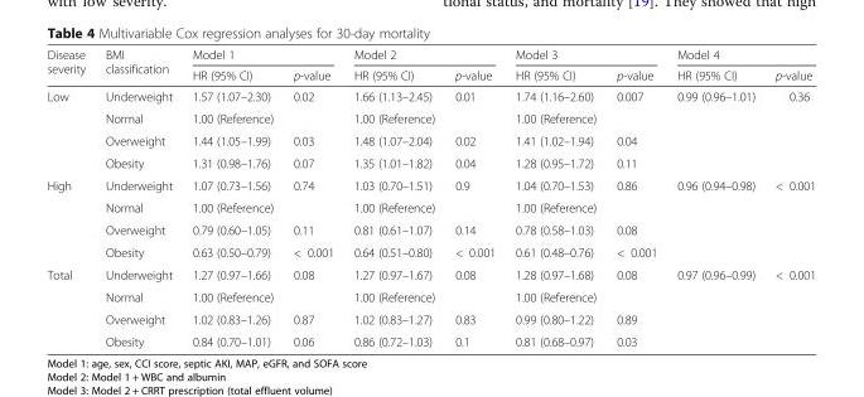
<table><thead><tr><td rowspan="2">Disease severity</td><td rowspan="2">BMI classification</td><td colspan="2">Model 1</td><td colspan="2">Model 2</td><td colspan="2">Model 3</td><td colspan="2">Model 4</td></tr><tr><td>HR (95% CI)</td><td>p-value</td><td>HR (95% CI)</td><td>p-value</td><td>HR (95% CI)</td><td>p-value</td><td>HR (95% CI)</td><td>p-value</td></tr></thead><tbody><tr><td rowspan="4">Low</td><td>Underweight</td><td>1.57 (1.07–2.30)</td><td>0.02</td><td>1.66 (1.13–2.45)</td><td>0.01</td><td>1.74 (1.16–2.60)</td><td>0.007</td><td rowspan="4">0.99 (0.96–1.01)</td><td rowspan="4">0.36</td></tr><tr><td>Normal</td><td>1.00 (Reference)</td><td></td><td>1.00 (Reference)</td><td></td><td>1.00 (Reference)</td><td></td></tr><tr><td>Overweight</td><td>1.44 (1.05–1.99)</td><td>0.03</td><td>1.48 (1.07–2.04)</td><td>0.02</td><td>1.41 (1.02–1.94)</td><td>0.04</td></tr><tr><td>Obesity</td><td>1.31 (0.98–1.76)</td><td>0.07</td><td>1.35 (1.01–1.82)</td><td>0.04</td><td>1.28 (0.95–1.72)</td><td>0.11</td></tr><tr><td rowspan="4">High</td><td>Underweight</td><td>1.07 (0.73–1.56)</td><td>0.74</td><td>1.03 (0.70–1.51)</td><td>0.9</td><td>1.04 (0.70–1.53)</td><td>0.86</td><td rowspan="4">0.96 (0.94–0.98)</td><td rowspan="4">&lt; 0.001</td></tr><tr><td>Normal</td><td>1.00 (Reference)</td><td></td><td>1.00 (Reference)</td><td></td><td>1.00 (Reference)</td><td></td></tr><tr><td>Overweight</td><td>0.79 (0.60–1.05)</td><td>0.11</td><td>0.81 (0.61–1.07)</td><td>0.14</td><td>0.78 (0.58–1.03)</td><td>0.08</td></tr><tr><td>Obesity</td><td>0.63 (0.50–0.79)</td><td>&lt; 0.001</td><td>0.64 (0.51–0.80)</td><td>&lt; 0.001</td><td>0.61 (0.48–0.76)</td><td>&lt; 0.001</td></tr><tr><td rowspan="4">Total</td><td>Underweight</td><td>1.27 (0.97–1.66)</td><td>0.08</td><td>1.27 (0.97–1.67)</td><td>0.08</td><td>1.28 (0.97–1.68)</td><td>0.08</td><td rowspan="4">0.97 (0.96–0.99)</td><td rowspan="4">&lt; 0.001</td></tr><tr><td>Normal</td><td>1.00 (Reference)</td><td></td><td>1.00 (Reference)</td><td></td><td>1.00 (Reference)</td><td></td></tr><tr><td>Overweight</td><td>1.02 (0.83–1.26)</td><td>0.87</td><td>1.02 (0.83–1.27)</td><td>0.83</td><td>0.99 (0.80–1.22)</td><td>0.89</td></tr><tr><td>Obesity</td><td>0.84 (0.70–1.01)</td><td>0.06</td><td>0.86 (0.72–1.03)</td><td>0.1</td><td>0.81 (0.68–0.97)</td><td>0.03</td></tr></tbody></table>